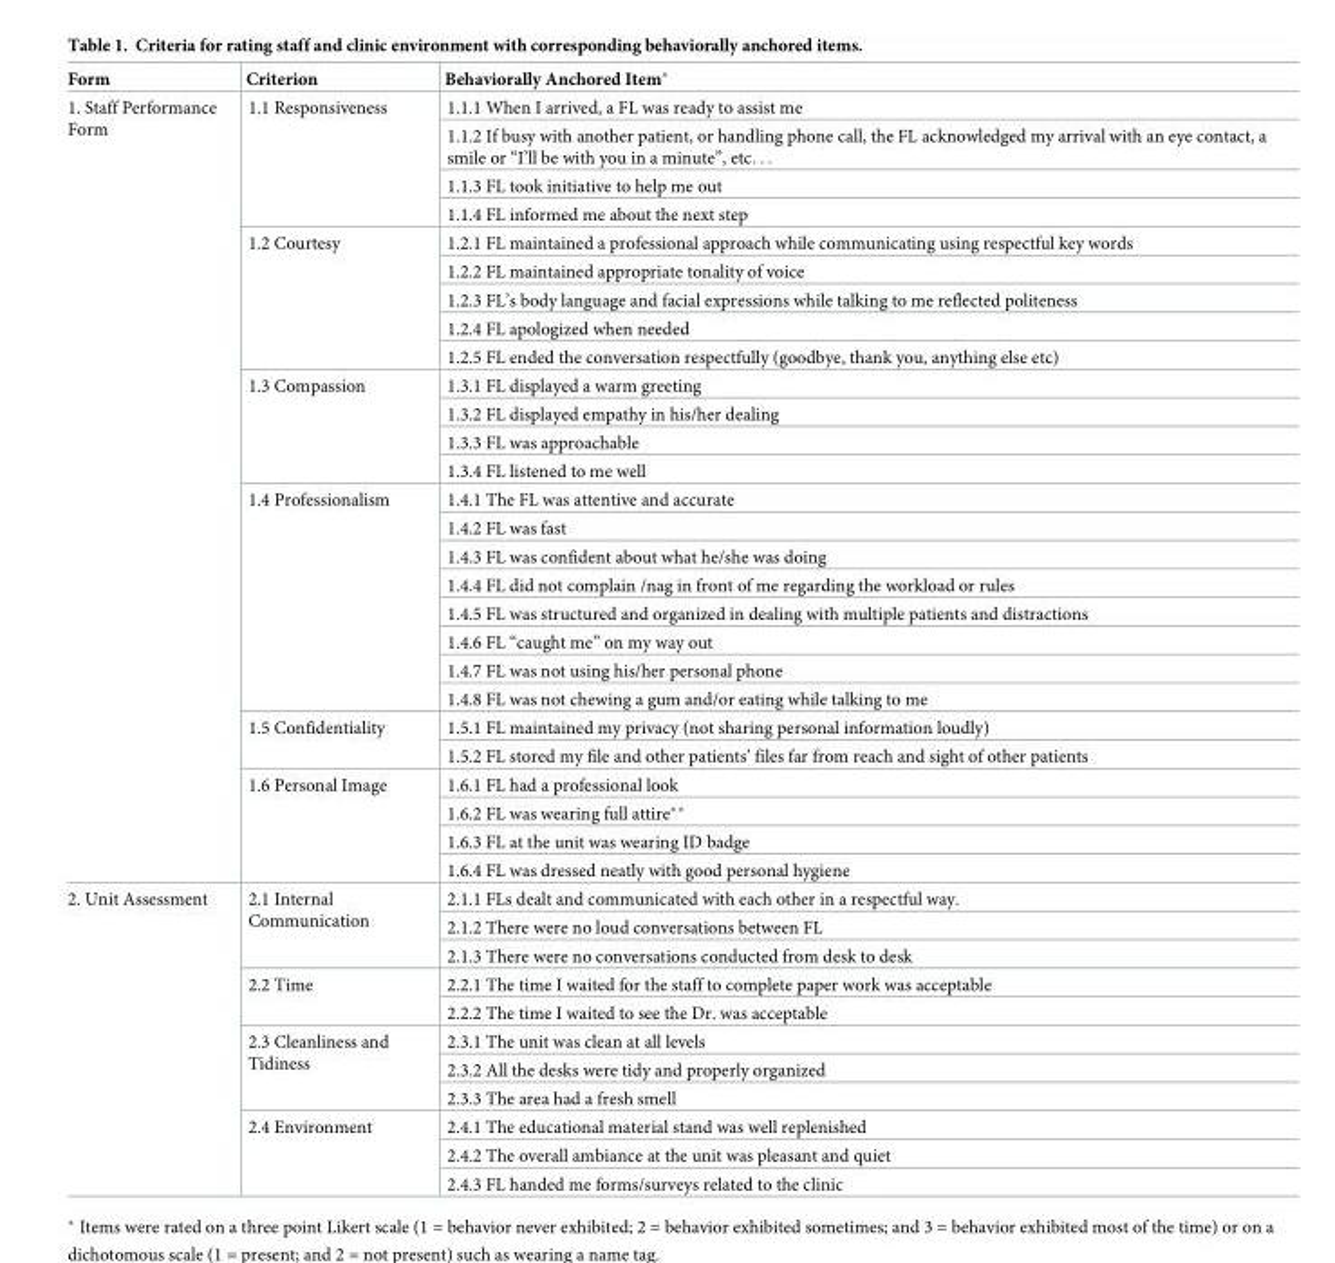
<table><thead><tr><td>Form</td><td>Criterion</td><td>Behaviorally Anchored Item*</td></tr></thead><tbody><tr><td rowspan="27">1. Staff Performance Form</td><td rowspan="4">1.1 Responsiveness</td><td>1.1.1 When I arrived, a FL was ready to assist me</td></tr><tr><td>1.1.2 If busy with another patient, or handling phone call, the FL acknowledged my arrival with an eye contact, a smile or “I’ll be with you in a minute”, etc. . .</td></tr><tr><td>1.1.3 FL took initiative to help me out</td></tr><tr><td>1.1.4 FL informed me about the next step</td></tr><tr><td rowspan="5">1.2 Courtesy</td><td>1.2.1 FL maintained a professional approach while communicating using respectful key words</td></tr><tr><td>1.2.2 FL maintained appropriate tonality of voice</td></tr><tr><td>1.2.3 FL’s body language and facial expressions while talking to me reflected politeness</td></tr><tr><td>1.2.4 FL apologized when needed</td></tr><tr><td>1.2.5 FL ended the conversation respectfully (goodbye, thank you, anything else etc)</td></tr><tr><td rowspan="4">1.3 Compassion</td><td>1.3.1 FL displayed a warm greeting</td></tr><tr><td>1.3.2 FL displayed empathy in his/her dealing</td></tr><tr><td>1.3.3 FL was approachable</td></tr><tr><td>1.3.4 FL listened to me well</td></tr><tr><td rowspan="8">1.4 Professionalism</td><td>1.4.1 The FL was attentive and accurate</td></tr><tr><td>1.4.2 FL was fast</td></tr><tr><td>1.4.3 FL was confident about what he/she was doing</td></tr><tr><td>1.4.4 FL did not complain /nag in front of me regarding the workload or rules</td></tr><tr><td>1.4.5 FL was structured and organized in dealing with multiple patients and distractions</td></tr><tr><td>1.4.6 FL “caught me” on my way out</td></tr><tr><td>1.4.7 FL was not using his/her personal phone</td></tr><tr><td>1.4.8 FL was not chewing a gum and/or eating while talking to me</td></tr><tr><td rowspan="2">1.5 Confidentiality</td><td>1.5.1 FL maintained my privacy (not sharing personal information loudly)</td></tr><tr><td>1.5.2 FL stored my file and other patients’ files far from reach and sight of other patients</td></tr><tr><td rowspan="4">1.6 Personal Image</td><td>1.6.1 FL had a professional look</td></tr><tr><td>1.6.2 FL was wearing full attire**</td></tr><tr><td>1.6.3 FL at the unit was wearing ID badge</td></tr><tr><td>1.6.4 FL was dressed neatly with good personal hygiene</td></tr><tr><td rowspan="11">2. Unit Assessment</td><td rowspan="3">2.1 Internal Communication</td><td>2.1.1 FLs dealt and communicated with each other in a respectful way.</td></tr><tr><td>2.1.2 There were no loud conversations between FL</td></tr><tr><td>2.1.3 There were no conversations conducted from desk to desk</td></tr><tr><td rowspan="2">2.2 Time</td><td>2.2.1 The time I waited for the staff to complete paper work was acceptable</td></tr><tr><td>2.2.2 The time I waited to see the Dr. was acceptable</td></tr><tr><td rowspan="3">2.3 Cleanliness and Tidiness</td><td>2.3.1 The unit was clean at all levels</td></tr><tr><td>2.3.2 All the desks were tidy and properly organized</td></tr><tr><td>2.3.3 The area had a fresh smell</td></tr><tr><td rowspan="3">2.4 Environment</td><td>2.4.1 The educational material stand was well replenished</td></tr><tr><td>2.4.2 The overall ambiance at the unit was pleasant and quiet</td></tr><tr><td>2.4.3 FL handed me forms/surveys related to the clinic</td></tr></tbody></table>